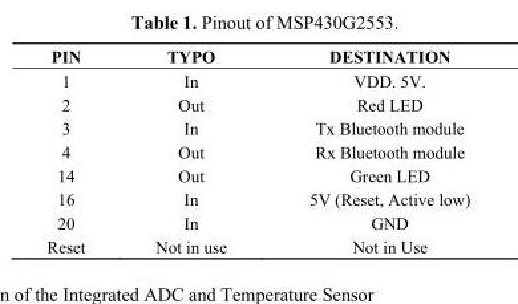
<table><thead><tr><td>PIN</td><td>TYPO</td><td>DESTINATION</td></tr></thead><tbody><tr><td>1</td><td>In</td><td>VDD. 5V.</td></tr><tr><td>2</td><td>Out</td><td>Red LED</td></tr><tr><td>3</td><td>In</td><td>Tx Bluetooth module</td></tr><tr><td>4</td><td>Out</td><td>Rx Bluetooth module</td></tr><tr><td>14</td><td>Out</td><td>Green LED</td></tr><tr><td>16</td><td>In</td><td>5V (Reset, Active low)</td></tr><tr><td>20</td><td>In</td><td>GND</td></tr><tr><td>Reset</td><td>Not in use</td><td>Not in Use</td></tr></tbody></table>